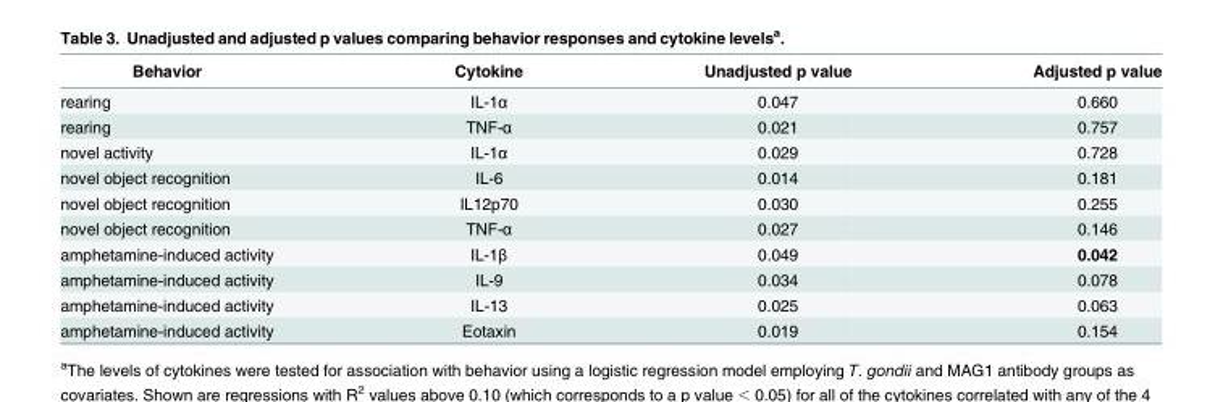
<table><thead><tr><td>Behavior</td><td>Cytokine</td><td>Unadjusted p value</td><td>Adjusted p value</td></tr></thead><tbody><tr><td>rearing</td><td>IL-1α</td><td>0.047</td><td>0.660</td></tr><tr><td>rearing</td><td>TNF-α</td><td>0.021</td><td>0.757</td></tr><tr><td>novel activity</td><td>IL-1α</td><td>0.029</td><td>0.728</td></tr><tr><td>novel object recognition</td><td>IL-6</td><td>0.014</td><td>0.181</td></tr><tr><td>novel object recognition</td><td>IL12p70</td><td>0.030</td><td>0.255</td></tr><tr><td>novel object recognition</td><td>TNF-α</td><td>0.027</td><td>0.146</td></tr><tr><td>amphetamine-induced activity</td><td>IL-1β</td><td>0.049</td><td>0.042</td></tr><tr><td>amphetamine-induced activity</td><td>IL-9</td><td>0.034</td><td>0.078</td></tr><tr><td>amphetamine-induced activity</td><td>IL-13</td><td>0.025</td><td>0.063</td></tr><tr><td>amphetamine-induced activity</td><td>Eotaxin</td><td>0.019</td><td>0.154</td></tr></tbody></table>